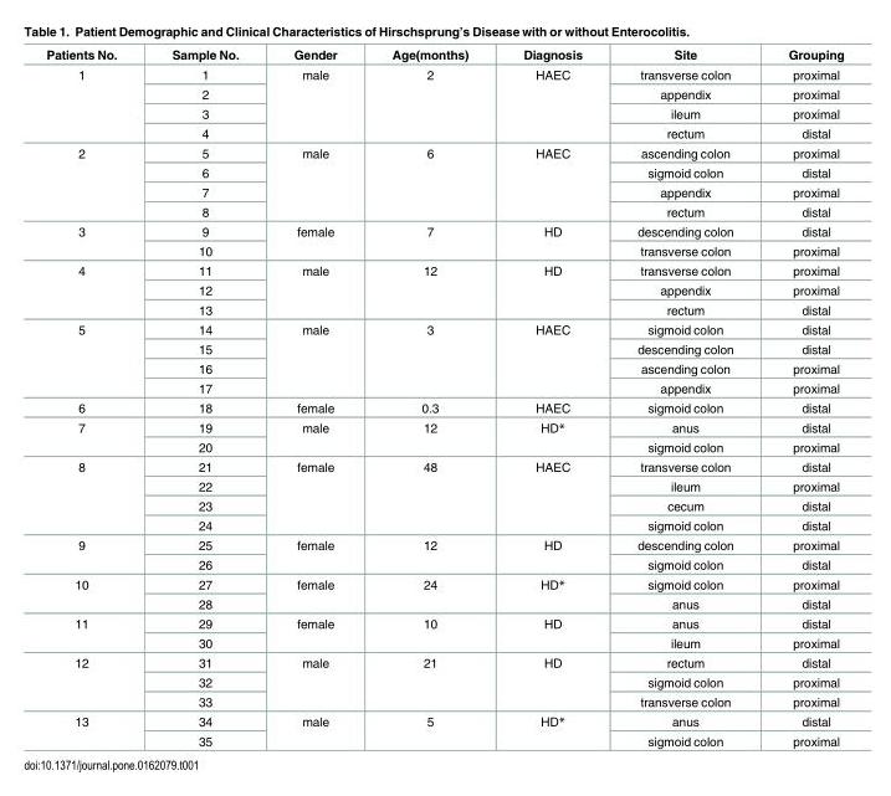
<table><thead><tr><td>Patients No.</td><td>Sample No.</td><td>Gender</td><td>Age(months)</td><td>Diagnosis</td><td>Site</td><td>Grouping</td></tr></thead><tbody><tr><td rowspan="4">1</td><td>1</td><td rowspan="4">male</td><td rowspan="4">2</td><td rowspan="4">HAEC</td><td>transverse colon</td><td>proximal</td></tr><tr><td>2</td><td>appendix</td><td>proximal</td></tr><tr><td>3</td><td>ileum</td><td>proximal</td></tr><tr><td>4</td><td>rectum</td><td>distal</td></tr><tr><td rowspan="4">2</td><td>5</td><td rowspan="4">male</td><td rowspan="4">6</td><td rowspan="4">HAEC</td><td>ascending colon</td><td>proximal</td></tr><tr><td>6</td><td>sigmoid colon</td><td>distal</td></tr><tr><td>7</td><td>appendix</td><td>proximal</td></tr><tr><td>8</td><td>rectum</td><td>distal</td></tr><tr><td rowspan="2">3</td><td>9</td><td rowspan="2">female</td><td rowspan="2">7</td><td rowspan="2">HD</td><td>descending colon</td><td>distal</td></tr><tr><td>10</td><td>transverse colon</td><td>proximal</td></tr><tr><td rowspan="3">4</td><td>11</td><td rowspan="3">male</td><td rowspan="3">12</td><td rowspan="3">HD</td><td>transverse colon</td><td>proximal</td></tr><tr><td>12</td><td>appendix</td><td>proximal</td></tr><tr><td>13</td><td>rectum</td><td>distal</td></tr><tr><td rowspan="4">5</td><td>14</td><td rowspan="4">male</td><td rowspan="4">3</td><td rowspan="4">HAEC</td><td>sigmoid colon</td><td>distal</td></tr><tr><td>15</td><td>descending colon</td><td>distal</td></tr><tr><td>16</td><td>ascending colon</td><td>proximal</td></tr><tr><td>17</td><td>appendix</td><td>proximal</td></tr><tr><td>6</td><td>18</td><td>female</td><td>0.3</td><td>HAEC</td><td>sigmoid colon</td><td>distal</td></tr><tr><td rowspan="2">7</td><td>19</td><td rowspan="2">male</td><td rowspan="2">12</td><td rowspan="2">HD*</td><td>anus</td><td>distal</td></tr><tr><td>20</td><td>sigmoid colon</td><td>proximal</td></tr><tr><td rowspan="4">8</td><td>21</td><td rowspan="4">female</td><td rowspan="4">48</td><td rowspan="4">HAEC</td><td>transverse colon</td><td>distal</td></tr><tr><td>22</td><td>ileum</td><td>proximal</td></tr><tr><td>23</td><td>cecum</td><td>distal</td></tr><tr><td>24</td><td>sigmoid colon</td><td>distal</td></tr><tr><td rowspan="2">9</td><td>25</td><td rowspan="2">female</td><td rowspan="2">12</td><td rowspan="2">HD</td><td>descending colon</td><td>proximal</td></tr><tr><td>26</td><td>sigmoid colon</td><td>distal</td></tr><tr><td rowspan="2">10</td><td>27</td><td rowspan="2">female</td><td rowspan="2">24</td><td rowspan="2">HD*</td><td>sigmoid colon</td><td>proximal</td></tr><tr><td>28</td><td>anus</td><td>distal</td></tr><tr><td rowspan="2">11</td><td>29</td><td rowspan="2">female</td><td rowspan="2">10</td><td rowspan="2">HD</td><td>anus</td><td>distal</td></tr><tr><td>30</td><td>ileum</td><td>proximal</td></tr><tr><td rowspan="3">12</td><td>31</td><td rowspan="3">male</td><td rowspan="3">21</td><td rowspan="3">HD</td><td>rectum</td><td>distal</td></tr><tr><td>32</td><td>sigmoid colon</td><td>proximal</td></tr><tr><td>33</td><td>transverse colon</td><td>proximal</td></tr><tr><td rowspan="2">13</td><td>34</td><td rowspan="2">male</td><td rowspan="2">5</td><td rowspan="2">HD*</td><td>anus</td><td>distal</td></tr><tr><td>35</td><td>sigmoid colon</td><td>proximal</td></tr></tbody></table>